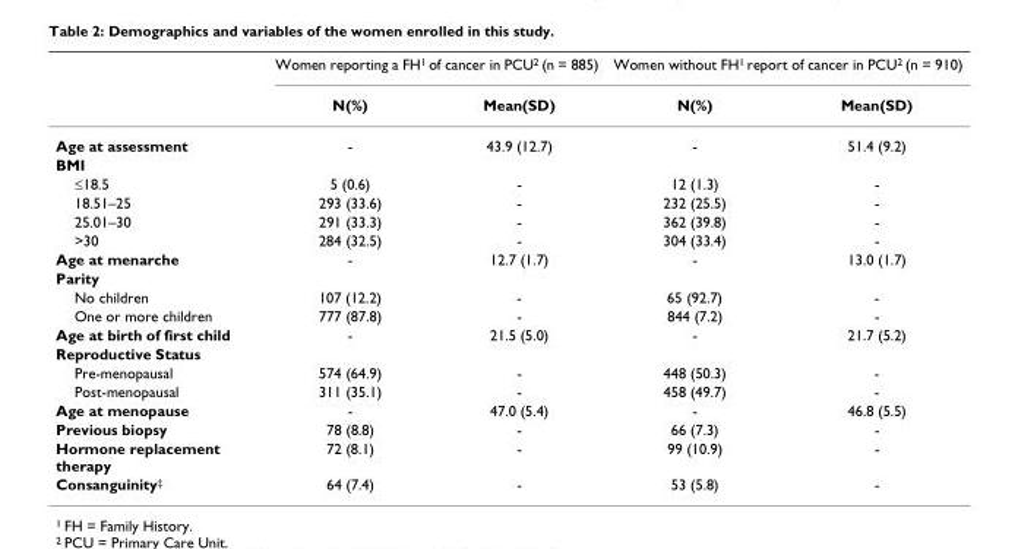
<table><thead><tr><td rowspan="2"></td><td colspan="2">Women reporting a FH<sup>1</sup> of cancer in PCU<sup>2</sup> (n = 885)</td><td colspan="2">Women without FH<sup>1</sup> report of cancer in PCU<sup>2</sup> (n = 910)</td></tr><tr><td>N(%)</td><td>Mean(SD)</td><td>N(%)</td><td>Mean(SD)</td></tr></thead><tbody><tr><td>Age at assessment</td><td>-</td><td>43.9 (12.7)</td><td>-</td><td>51.4 (9.2)</td></tr><tr><td colspan="5">BMI</td></tr><tr><td>≤18.5</td><td>5 (0.6)</td><td>-</td><td>12 (1.3)</td><td>-</td></tr><tr><td>18.51–25</td><td>293 (33.6)</td><td>-</td><td>232 (25.5)</td><td>-</td></tr><tr><td>25.01–30</td><td>291 (33.3)</td><td>-</td><td>362 (39.8)</td><td>-</td></tr><tr><td>&gt;30</td><td>284 (32.5)</td><td>-</td><td>304 (33.4)</td><td>-</td></tr><tr><td>Age at menarche</td><td>-</td><td>12.7 (1.7)</td><td>-</td><td>13.0 (1.7)</td></tr><tr><td colspan="5">Parity</td></tr><tr><td>No children</td><td>107 (12.2)</td><td>-</td><td>65 (92.7)</td><td>-</td></tr><tr><td>One or more children</td><td>777 (87.8)</td><td>-</td><td>844 (7.2)</td><td>-</td></tr><tr><td>Age at birth of first child</td><td>-</td><td>21.5 (5.0)</td><td>-</td><td>21.7 (5.2)</td></tr><tr><td colspan="5">Reproductive Status</td></tr><tr><td>Pre-menopausal</td><td>574 (64.9)</td><td>-</td><td>448 (50.3)</td><td>-</td></tr><tr><td>Post-menopausal</td><td>311 (35.1)</td><td>-</td><td>458 (49.7)</td><td>-</td></tr><tr><td>Age at menopause</td><td>-</td><td>47.0 (5.4)</td><td>-</td><td>46.8 (5.5)</td></tr><tr><td>Previous biopsy</td><td>78 (8.8)</td><td>-</td><td>66 (7.3)</td><td>-</td></tr><tr><td>Hormone replacement therapy</td><td>72 (8.1)</td><td>-</td><td>99 (10.9)</td><td>-</td></tr><tr><td>Consanguinity<sup>‡</sup></td><td>64 (7.4)</td><td>-</td><td>53 (5.8)</td><td>-</td></tr></tbody></table>